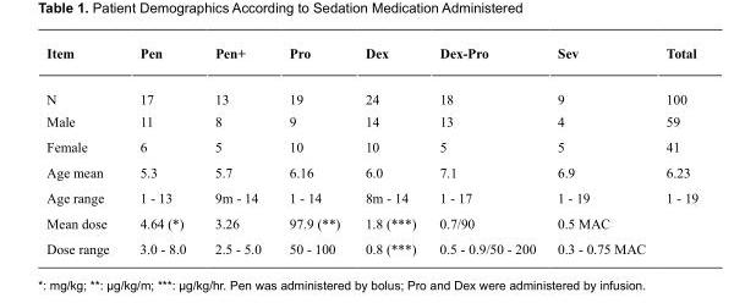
<table><thead><tr><td>Item</td><td>Pen</td><td>Pen+</td><td>Pro</td><td>Dex</td><td>Dex-Pro</td><td>Sev</td><td>Total</td></tr></thead><tbody><tr><td>N</td><td>17</td><td>13</td><td>19</td><td>24</td><td>18</td><td>9</td><td>100</td></tr><tr><td>Male</td><td>11</td><td>8</td><td>9</td><td>14</td><td>13</td><td>4</td><td>59</td></tr><tr><td>Female</td><td>6</td><td>5</td><td>10</td><td>10</td><td>5</td><td>5</td><td>41</td></tr><tr><td>Age mean</td><td>5.3</td><td>5.7</td><td>6.16</td><td>6.0</td><td>7.1</td><td>6.9</td><td>6.23</td></tr><tr><td>Age range</td><td>1 - 13</td><td>9m - 14</td><td>1 - 14</td><td>8m - 14</td><td>1 - 17</td><td>1 - 19</td><td>1 - 19</td></tr><tr><td>Mean dose</td><td>4.64 (*)</td><td>3.26</td><td>97.9 (**)</td><td>1.8 (***)</td><td>0.7/90</td><td>0.5 MAC</td><td></td></tr><tr><td>Dose range</td><td>3.0 - 8.0</td><td>2.5 - 5.0</td><td>50 - 100</td><td>0.8 (***)</td><td>0.5 - 0.9/50 - 200</td><td>0.3 - 0.75 MAC</td><td></td></tr></tbody></table>